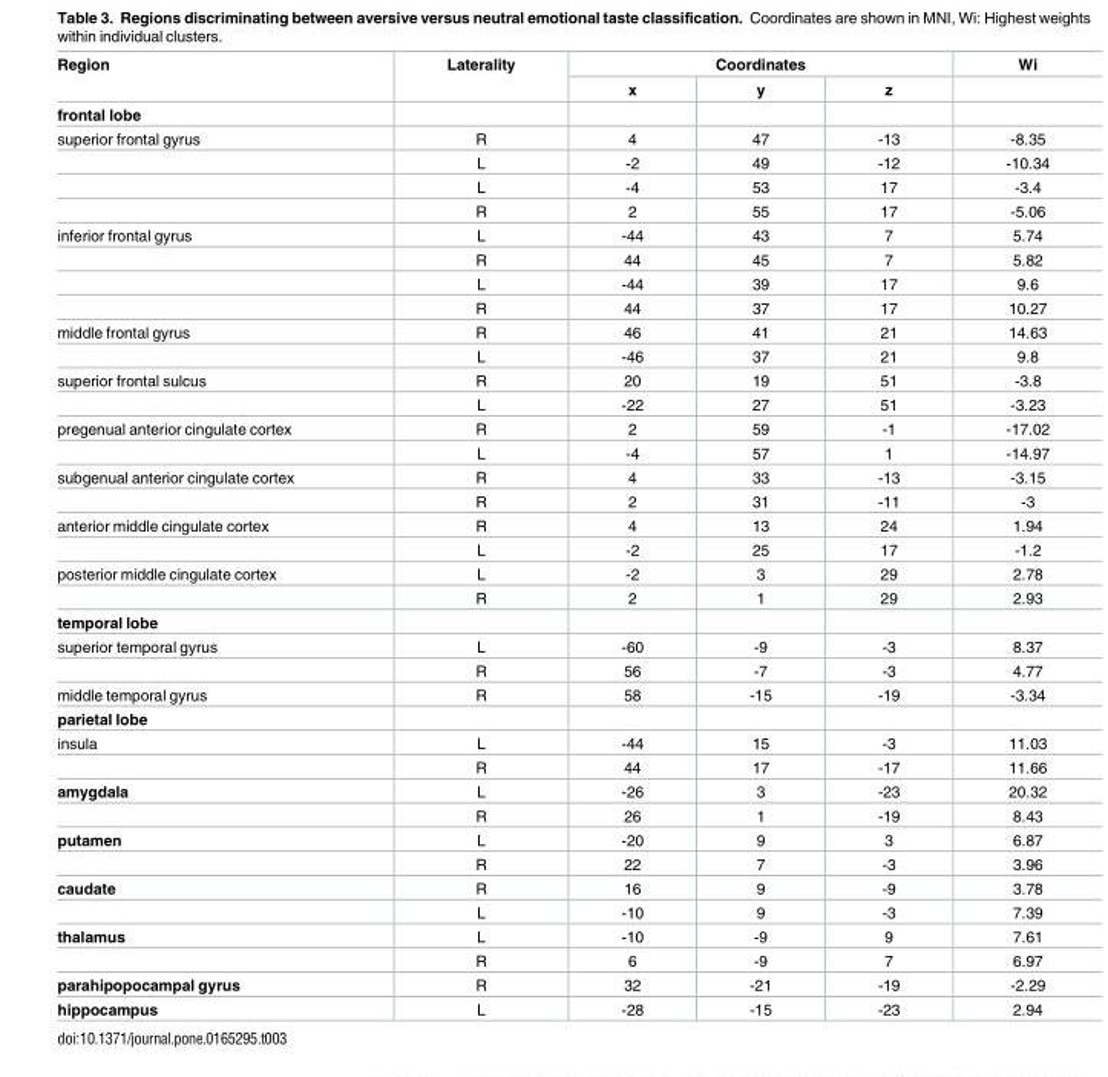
<table><thead><tr><td rowspan="2">Region</td><td rowspan="2">Laterality</td><td colspan="3">Coordinates</td><td rowspan="2">Wi</td></tr><tr><td>x</td><td>y</td><td>z</td></tr></thead><tbody><tr><td colspan="6">frontal lobe</td></tr><tr><td rowspan="4">superior frontal gyrus</td><td>R</td><td>4</td><td>47</td><td>-13</td><td>-8.35</td></tr><tr><td>L</td><td>-2</td><td>49</td><td>-12</td><td>-10.34</td></tr><tr><td>L</td><td>-4</td><td>53</td><td>17</td><td>-3.4</td></tr><tr><td>R</td><td>2</td><td>55</td><td>17</td><td>-5.06</td></tr><tr><td rowspan="4">inferior frontal gyrus</td><td>L</td><td>-44</td><td>43</td><td>7</td><td>5.74</td></tr><tr><td>R</td><td>44</td><td>45</td><td>7</td><td>5.82</td></tr><tr><td>L</td><td>-44</td><td>39</td><td>17</td><td>9.6</td></tr><tr><td>R</td><td>44</td><td>37</td><td>17</td><td>10.27</td></tr><tr><td rowspan="2">middle frontal gyrus</td><td>R</td><td>46</td><td>41</td><td>21</td><td>14.63</td></tr><tr><td>L</td><td>-46</td><td>37</td><td>21</td><td>9.8</td></tr><tr><td rowspan="2">superior frontal sulcus</td><td>R</td><td>20</td><td>19</td><td>51</td><td>-3.8</td></tr><tr><td>L</td><td>-22</td><td>27</td><td>51</td><td>-3.23</td></tr><tr><td rowspan="2">pregenual anterior cingulate cortex</td><td>R</td><td>2</td><td>59</td><td>-1</td><td>-17.02</td></tr><tr><td>L</td><td>-4</td><td>57</td><td>1</td><td>-14.97</td></tr><tr><td rowspan="2">subgenual anterior cingulate cortex</td><td>R</td><td>4</td><td>33</td><td>-13</td><td>-3.15</td></tr><tr><td>R</td><td>2</td><td>31</td><td>-11</td><td>-3</td></tr><tr><td rowspan="2">anterior middle cingulate cortex</td><td>R</td><td>4</td><td>13</td><td>24</td><td>1.94</td></tr><tr><td>L</td><td>-2</td><td>25</td><td>17</td><td>-1.2</td></tr><tr><td rowspan="2">posterior middle cingulate cortex</td><td>L</td><td>-2</td><td>3</td><td>29</td><td>2.78</td></tr><tr><td>R</td><td>2</td><td>1</td><td>29</td><td>2.93</td></tr><tr><td colspan="6">temporal lobe</td></tr><tr><td rowspan="2">superior temporal gyrus</td><td>L</td><td>-60</td><td>-9</td><td>-3</td><td>8.37</td></tr><tr><td>R</td><td>56</td><td>-7</td><td>-3</td><td>4.77</td></tr><tr><td>middle temporal gyrus</td><td>R</td><td>58</td><td>-15</td><td>-19</td><td>-3.34</td></tr><tr><td colspan="6">parietal lobe</td></tr><tr><td rowspan="2">insula</td><td>L</td><td>-44</td><td>15</td><td>-3</td><td>11.03</td></tr><tr><td>R</td><td>44</td><td>17</td><td>-17</td><td>11.66</td></tr><tr><td rowspan="2">amygdala</td><td>L</td><td>-26</td><td>3</td><td>-23</td><td>20.32</td></tr><tr><td>R</td><td>26</td><td>1</td><td>-19</td><td>8.43</td></tr><tr><td rowspan="2">putamen</td><td>L</td><td>-20</td><td>9</td><td>3</td><td>6.87</td></tr><tr><td>R</td><td>22</td><td>7</td><td>-3</td><td>3.96</td></tr><tr><td rowspan="2">caudate</td><td>R</td><td>16</td><td>9</td><td>-9</td><td>3.78</td></tr><tr><td>L</td><td>-10</td><td>9</td><td>-3</td><td>7.39</td></tr><tr><td rowspan="2">thalamus</td><td>L</td><td>-10</td><td>-9</td><td>9</td><td>7.61</td></tr><tr><td>R</td><td>6</td><td>-9</td><td>7</td><td>6.97</td></tr><tr><td>parahipopocampal gyrus</td><td>R</td><td>32</td><td>-21</td><td>-19</td><td>-2.29</td></tr><tr><td>hippocampus</td><td>L</td><td>-28</td><td>-15</td><td>-23</td><td>2.94</td></tr></tbody></table>